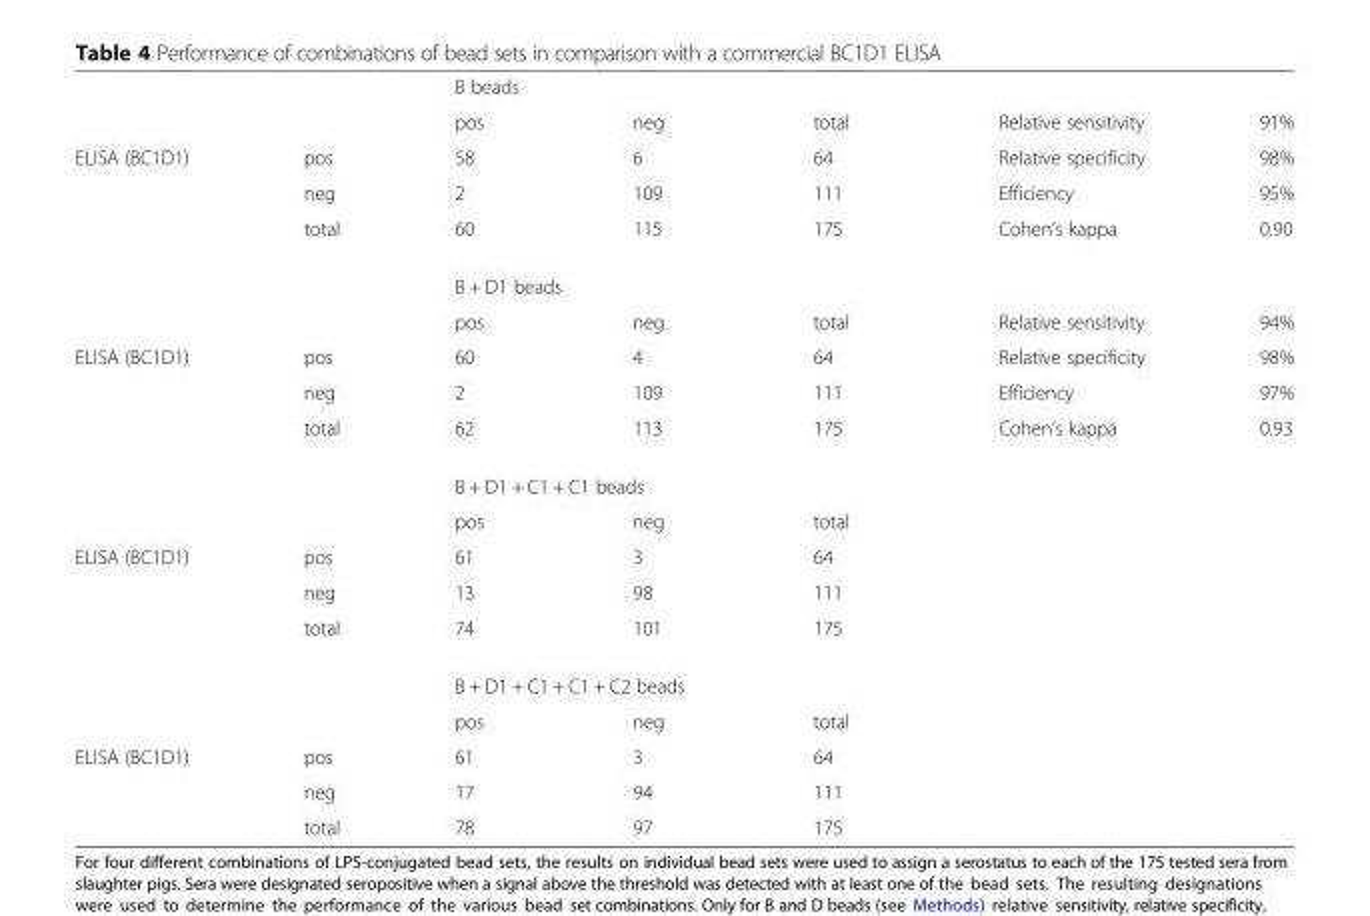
<table><thead><tr><td rowspan="2"></td><td rowspan="2"></td><td colspan="3">B beads</td><td rowspan="2">Relative sensitivity</td><td rowspan="2">91%</td></tr><tr><td>pos</td><td>neg</td><td>total</td></tr></thead><tbody><tr><td rowspan="5">ELISA (BC1D1)</td><td>pos</td><td>58</td><td>6</td><td>64</td><td>Relative specificity</td><td>98%</td></tr><tr><td>neg</td><td>2</td><td>109</td><td>111</td><td>Efficiency</td><td>95%</td></tr><tr><td>total</td><td>60</td><td>115</td><td>175</td><td>Cohen’s kappa</td><td>0.90</td></tr><tr><td></td><td colspan="3">B + D1 beads</td><td></td><td></td></tr><tr><td></td><td>pos</td><td>neg</td><td>total</td><td>Relative sensitivity</td><td>94%</td></tr><tr><td rowspan="5">ELISA (BC1D1)</td><td>pos</td><td>60</td><td>4</td><td>64</td><td>Relative specificity</td><td>98%</td></tr><tr><td>neg</td><td>2</td><td>109</td><td>111</td><td>Efficiency</td><td>97%</td></tr><tr><td>total</td><td>62</td><td>113</td><td>175</td><td>Cohen’s kappa</td><td>0.93</td></tr><tr><td></td><td colspan="3">B + D1 + C1 + C1 beads</td><td rowspan="10"></td><td rowspan="10"></td></tr><tr><td></td><td>pos</td><td>neg</td><td>total</td></tr><tr><td rowspan="5">ELISA (BC1D1)</td><td>pos</td><td>61</td><td>3</td><td>64</td></tr><tr><td>neg</td><td>13</td><td>98</td><td>111</td></tr><tr><td>total</td><td>74</td><td>101</td><td>175</td></tr><tr><td></td><td colspan="3">B + D1 + C1 + C1 + C2 beads</td></tr><tr><td></td><td>pos</td><td>neg</td><td>total</td></tr><tr><td rowspan="3">ELISA (BC1D1)</td><td>pos</td><td>61</td><td>3</td><td>64</td></tr><tr><td>neg</td><td>17</td><td>94</td><td>111</td></tr><tr><td>total</td><td>78</td><td>97</td><td>175</td></tr></tbody></table>